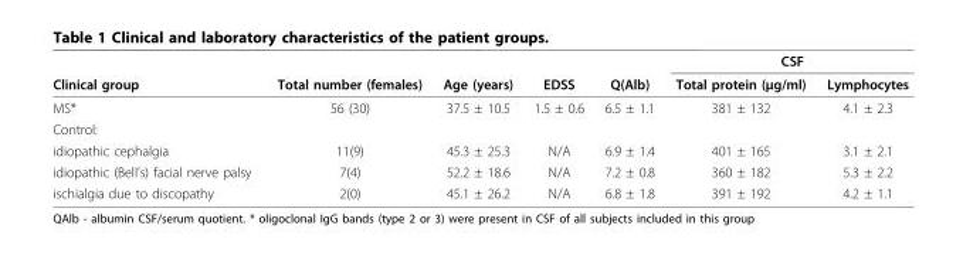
<table><thead><tr><td rowspan="2">Clinical group</td><td rowspan="2">Total number (females)</td><td rowspan="2">Age (years)</td><td rowspan="2">EDSS</td><td rowspan="2">Q(Alb)</td><td colspan="2">CSF</td></tr><tr><td>Total protein (μg/ml)</td><td>Lymphocytes</td></tr></thead><tbody><tr><td>MS*</td><td>56 (30)</td><td>37.5 ± 10.5</td><td>1.5 ± 0.6</td><td>6.5 ± 1.1</td><td>381 ± 132</td><td>4.1 ± 2.3</td></tr><tr><td colspan="7">Control:</td></tr><tr><td>idiopathic cephalgia</td><td>11(9)</td><td>45.3 ± 25.3</td><td>N/A</td><td>6.9 ± 1.4</td><td>401 ± 165</td><td>3.1 ± 2.1</td></tr><tr><td>idiopathic (Bell’s) facial nerve palsy</td><td>7(4)</td><td>52.2 ± 18.6</td><td>N/A</td><td>7.2 ± 0.8</td><td>360 ± 182</td><td>5.3 ± 2.2</td></tr><tr><td>ischialgia due to discopathy</td><td>2(0)</td><td>45.1 ± 26.2</td><td>N/A</td><td>6.8 ± 1.8</td><td>391 ± 192</td><td>4.2 ± 1.1</td></tr></tbody></table>